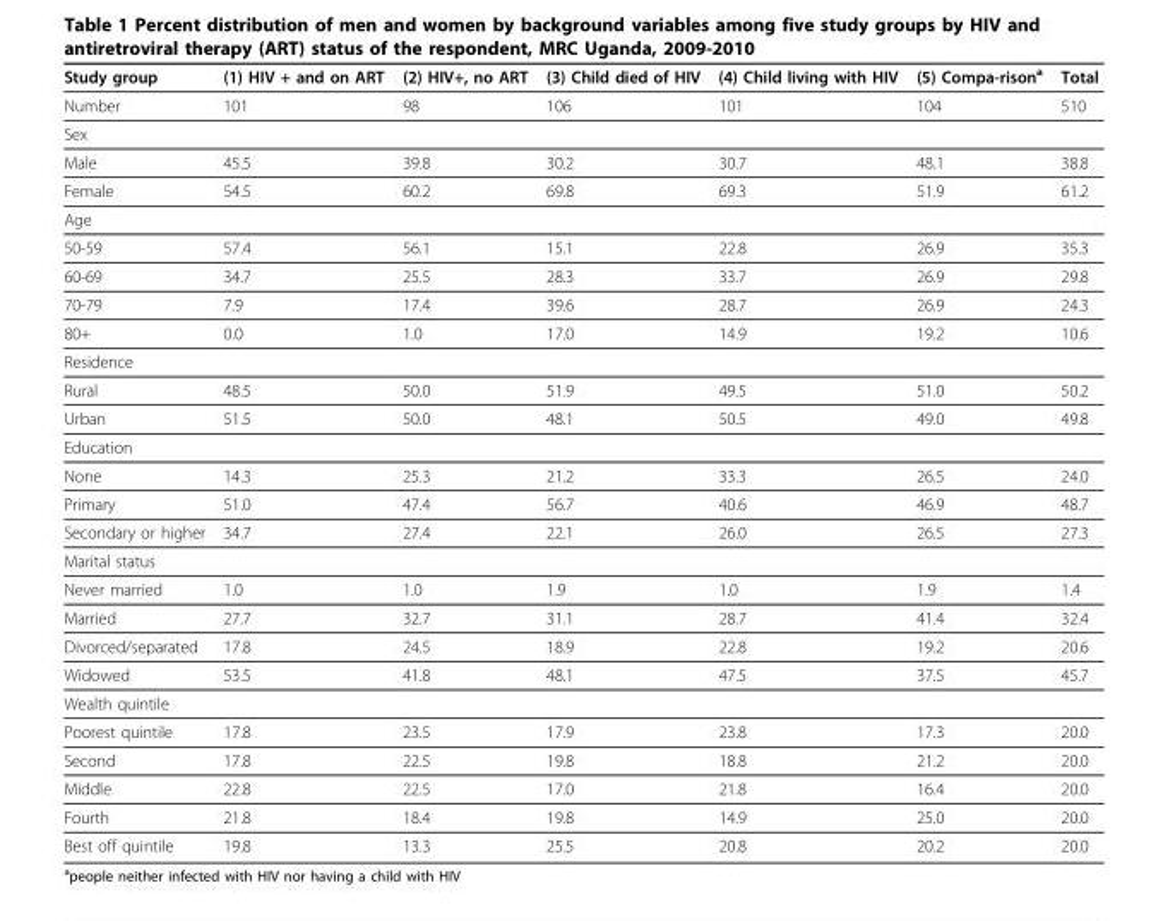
<table><thead><tr><td>Study group</td><td>(1) HIV + and on ART</td><td>(2) HIV+, no ART</td><td>(3) Child died of HIV</td><td>(4) Child living with HIV</td><td>(5) Compa-rison<sup>a</sup></td><td>Total</td></tr></thead><tbody><tr><td>Number</td><td>101</td><td>98</td><td>106</td><td>101</td><td>104</td><td>510</td></tr><tr><td colspan="7">Sex</td></tr><tr><td>Male</td><td>45.5</td><td>39.8</td><td>30.2</td><td>30.7</td><td>48.1</td><td>38.8</td></tr><tr><td>Female</td><td>54.5</td><td>60.2</td><td>69.8</td><td>69.3</td><td>51.9</td><td>61.2</td></tr><tr><td colspan="7">Age</td></tr><tr><td>50-59</td><td>57.4</td><td>56.1</td><td>15.1</td><td>22.8</td><td>26.9</td><td>35.3</td></tr><tr><td>60-69</td><td>34.7</td><td>25.5</td><td>28.3</td><td>33.7</td><td>26.9</td><td>29.8</td></tr><tr><td>70-79</td><td>7.9</td><td>17.4</td><td>39.6</td><td>28.7</td><td>26.9</td><td>24.3</td></tr><tr><td>80+</td><td>0.0</td><td>1.0</td><td>17.0</td><td>14.9</td><td>19.2</td><td>10.6</td></tr><tr><td colspan="7">Residence</td></tr><tr><td>Rural</td><td>48.5</td><td>50.0</td><td>51.9</td><td>49.5</td><td>51.0</td><td>50.2</td></tr><tr><td>Urban</td><td>51.5</td><td>50.0</td><td>48.1</td><td>50.5</td><td>49.0</td><td>49.8</td></tr><tr><td colspan="7">Education</td></tr><tr><td>None</td><td>14.3</td><td>25.3</td><td>21.2</td><td>33.3</td><td>26.5</td><td>24.0</td></tr><tr><td>Primary</td><td>51.0</td><td>47.4</td><td>56.7</td><td>40.6</td><td>46.9</td><td>48.7</td></tr><tr><td>Secondary or higher</td><td>34.7</td><td>27.4</td><td>22.1</td><td>26.0</td><td>26.5</td><td>27.3</td></tr><tr><td colspan="7">Marital status</td></tr><tr><td>Never married</td><td>1.0</td><td>1.0</td><td>1.9</td><td>1.0</td><td>1.9</td><td>1.4</td></tr><tr><td>Married</td><td>27.7</td><td>32.7</td><td>31.1</td><td>28.7</td><td>41.4</td><td>32.4</td></tr><tr><td>Divorced/separated</td><td>17.8</td><td>24.5</td><td>18.9</td><td>22.8</td><td>19.2</td><td>20.6</td></tr><tr><td>Widowed</td><td>53.5</td><td>41.8</td><td>48.1</td><td>47.5</td><td>37.5</td><td>45.7</td></tr><tr><td colspan="7">Wealth quintile</td></tr><tr><td>Poorest quintile</td><td>17.8</td><td>23.5</td><td>17.9</td><td>23.8</td><td>17.3</td><td>20.0</td></tr><tr><td>Second</td><td>17.8</td><td>22.5</td><td>19.8</td><td>18.8</td><td>21.2</td><td>20.0</td></tr><tr><td>Middle</td><td>22.8</td><td>22.5</td><td>17.0</td><td>21.8</td><td>16.4</td><td>20.0</td></tr><tr><td>Fourth</td><td>21.8</td><td>18.4</td><td>19.8</td><td>14.9</td><td>25.0</td><td>20.0</td></tr><tr><td>Best off quintile</td><td>19.8</td><td>13.3</td><td>25.5</td><td>20.8</td><td>20.2</td><td>20.0</td></tr></tbody></table>